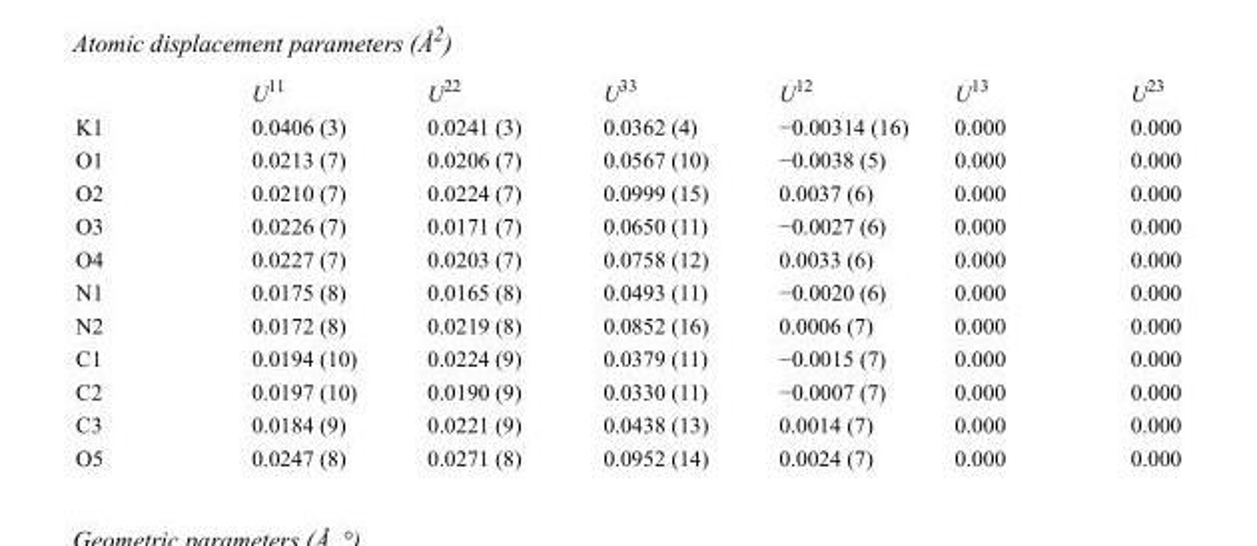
<table><thead><tr><td></td><td>U<sup>11</sup></td><td>U<sup>22</sup></td><td>U<sup>33</sup></td><td>U<sup>12</sup></td><td>U<sup>13</sup></td><td>U<sup>23</sup></td></tr></thead><tbody><tr><td>K1</td><td>0.0406 (3)</td><td>0.0241 (3)</td><td>0.0362 (4)</td><td>−0.00314 (16)</td><td>0.000</td><td>0.000</td></tr><tr><td>O1</td><td>0.0213 (7)</td><td>0.0206 (7)</td><td>0.0567 (10)</td><td>−0.0038 (5)</td><td>0.000</td><td>0.000</td></tr><tr><td>O2</td><td>0.0210 (7)</td><td>0.0224 (7)</td><td>0.0999 (15)</td><td>0.0037 (6)</td><td>0.000</td><td>0.000</td></tr><tr><td>O3</td><td>0.0226 (7)</td><td>0.0171 (7)</td><td>0.0650 (11)</td><td>−0.0027 (6)</td><td>0.000</td><td>0.000</td></tr><tr><td>O4</td><td>0.0227 (7)</td><td>0.0203 (7)</td><td>0.0758 (12)</td><td>0.0033 (6)</td><td>0.000</td><td>0.000</td></tr><tr><td>N1</td><td>0.0175 (8)</td><td>0.0165 (8)</td><td>0.0493 (11)</td><td>−0.0020 (6)</td><td>0.000</td><td>0.000</td></tr><tr><td>N2</td><td>0.0172 (8)</td><td>0.0219 (8)</td><td>0.0852 (16)</td><td>0.0006 (7)</td><td>0.000</td><td>0.000</td></tr><tr><td>C1</td><td>0.0194 (10)</td><td>0.0224 (9)</td><td>0.0379 (11)</td><td>−0.0015 (7)</td><td>0.000</td><td>0.000</td></tr><tr><td>C2</td><td>0.0197 (10)</td><td>0.0190 (9)</td><td>0.0330 (11)</td><td>−0.0007 (7)</td><td>0.000</td><td>0.000</td></tr><tr><td>C3</td><td>0.0184 (9)</td><td>0.0221 (9)</td><td>0.0438 (13)</td><td>0.0014 (7)</td><td>0.000</td><td>0.000</td></tr><tr><td>O5</td><td>0.0247 (8)</td><td>0.0271 (8)</td><td>0.0952 (14)</td><td>0.0024 (7)</td><td>0.000</td><td>0.000</td></tr></tbody></table>